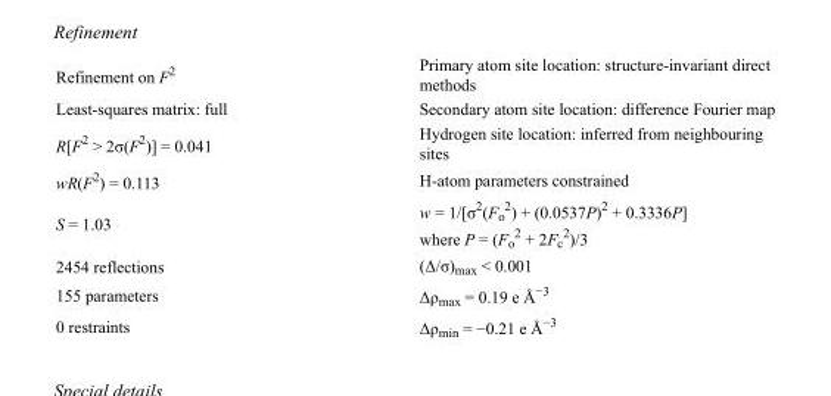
<table><tbody><tr><td>Refinement on F<sup>2</sup></td><td>Primary atom site location: structure-invariant direct methods</td></tr><tr><td>Least-squares matrix: full</td><td>Secondary atom site location: difference Fourier map</td></tr><tr><td>R[F<sup>2</sup> &gt; 2σ(F<sup>2</sup>)] = 0.041</td><td>Hydrogen site location: inferred from neighbouring sites</td></tr><tr><td>wR(F<sup>2</sup>) = 0.113</td><td>H-atom parameters constrained</td></tr><tr><td>S = 1.03</td><td>w = 1/[σ<sup>2</sup>(F<sub>o</sub> <sup>2</sup>) + (0.0537P)<sup>2</sup> + 0.3336P] where P = (F<sub>o</sub> <sup>2</sup> + 2F<sub>c</sub> <sup>2</sup>)/3</td></tr><tr><td>2454 reflections</td><td>(Δ/σ)<sub>max</sub> &lt; 0.001</td></tr><tr><td>155 parameters</td><td>Δρ<sub>max</sub> = 0.19 e Å<sup>−3</sup></td></tr><tr><td>0 restraints</td><td>Δρ<sub>min</sub> = −0.21 e Å<sup>−3</sup></td></tr></tbody></table>